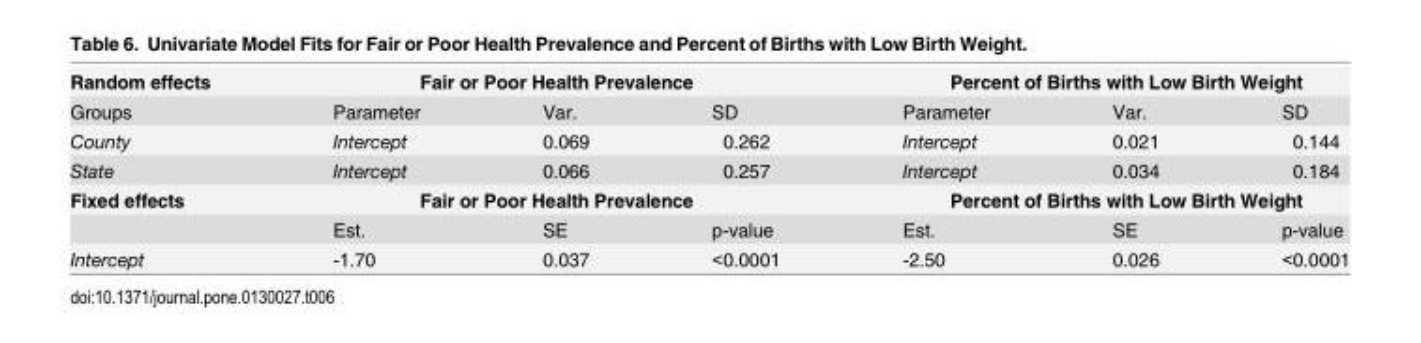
<table><tbody><tr><td>Random effects</td><td colspan="3">Fair or Poor Health Prevalence</td><td colspan="3">Percent of Births with Low Birth Weight</td></tr><tr><td>Groups</td><td>Parameter</td><td>Var.</td><td>SD</td><td>Parameter</td><td>Var.</td><td>SD</td></tr><tr><td>County</td><td>Intercept</td><td>0.069</td><td>0.262</td><td>Intercept</td><td>0.021</td><td>0.144</td></tr><tr><td>State</td><td>Intercept</td><td>0.066</td><td>0.257</td><td>Intercept</td><td>0.034</td><td>0.184</td></tr><tr><td rowspan="2">Fixed effects</td><td colspan="3">Fair or Poor Health Prevalence</td><td colspan="3">Percent of Births with Low Birth Weight</td></tr><tr><td>Est.</td><td>SE</td><td>p-value</td><td>Est.</td><td>SE</td><td>p-value</td></tr><tr><td>Intercept</td><td>-1.70</td><td>0.037</td><td>&lt;0.0001</td><td>-2.50</td><td>0.026</td><td>&lt;0.0001</td></tr></tbody></table>